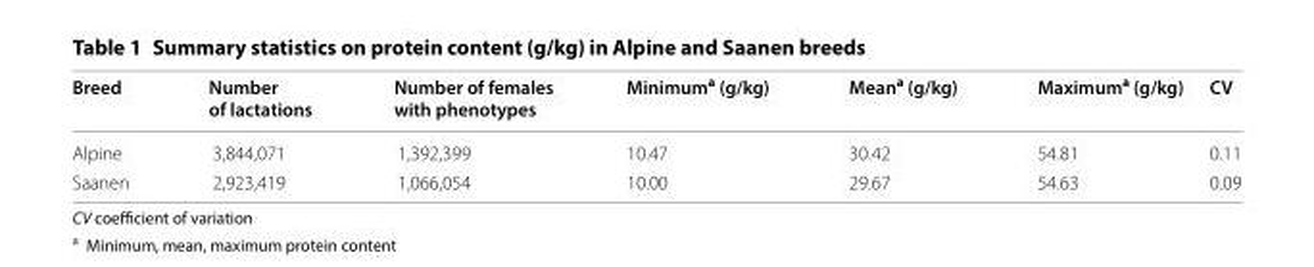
<table><thead><tr><td>Breed</td><td>Number of lactations</td><td>Number of females with phenotypes</td><td>Minimum<sup>a</sup> (g/kg)</td><td>Mean<sup>a</sup> (g/kg)</td><td>Maximum<sup>a</sup> (g/kg)</td><td>CV</td></tr></thead><tbody><tr><td>Alpine</td><td>3,844,071</td><td>1,392,399</td><td>10.47</td><td>30.42</td><td>54.81</td><td>0.11</td></tr><tr><td>Saanen</td><td>2,923,419</td><td>1,066,054</td><td>10.00</td><td>29.67</td><td>54.63</td><td>0.09</td></tr></tbody></table>